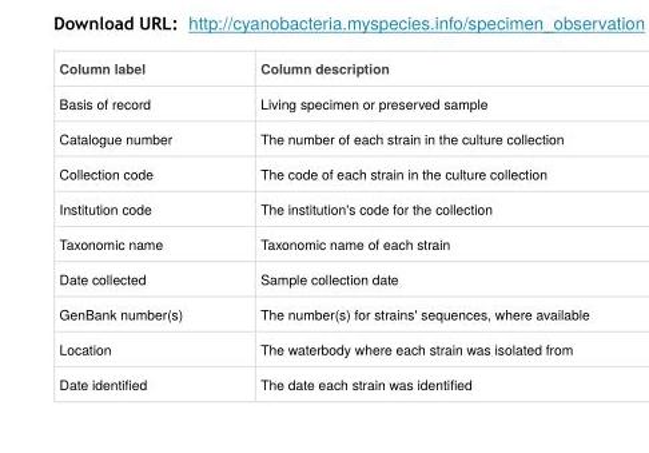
<table><thead><tr><td>Column label</td><td>Column description</td></tr></thead><tbody><tr><td>Basis of record</td><td>Living specimen or preserved sample</td></tr><tr><td>Catalogue number</td><td>The number of each strain in the culture collection</td></tr><tr><td>Collection code</td><td>The code of each strain in the culture collection</td></tr><tr><td>Institution code</td><td>The institution&#x27;s code for the collection</td></tr><tr><td>Taxonomic name</td><td>Taxonomic name of each strain</td></tr><tr><td>Date collected</td><td>Sample collection date</td></tr><tr><td>GenBank number(s)</td><td>The number(s) for strains&#x27; sequences, where available</td></tr><tr><td>Location</td><td>The waterbody where each strain was isolated from</td></tr><tr><td>Date identified</td><td>The date each strain was identified</td></tr></tbody></table>